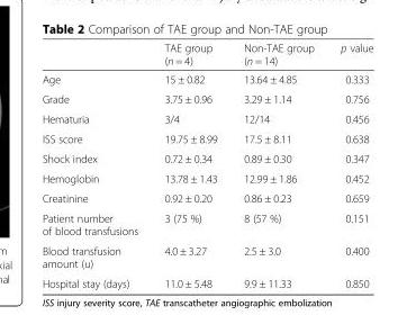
<table><thead><tr><td></td><td>TAE group (n = 4)</td><td>Non-TAE group (n = 14)</td><td>p value</td></tr></thead><tbody><tr><td>Age</td><td>15 ± 0.82</td><td>13.64 ± 4.85</td><td>0.333</td></tr><tr><td>Grade</td><td>3.75 ± 0.96</td><td>3.29 ± 1.14</td><td>0.756</td></tr><tr><td>Hematuria</td><td>3/4</td><td>12/14</td><td>0.456</td></tr><tr><td>ISS score</td><td>19.75 ± 8.99</td><td>17.5 ± 8.11</td><td>0.638</td></tr><tr><td>Shock index</td><td>0.72 ± 0.34</td><td>0.89 ± 0.30</td><td>0.347</td></tr><tr><td>Hemoglobin</td><td>13.78 ± 1.43</td><td>12.99 ± 1.86</td><td>0.452</td></tr><tr><td>Creatinine</td><td>0.92 ± 0.20</td><td>0.86 ± 0.23</td><td>0.659</td></tr><tr><td>Patient number of blood transfusions</td><td>3 (75 %)</td><td>8 (57 %)</td><td>0.151</td></tr><tr><td>Blood transfusion amount (u)</td><td>4.0 ± 3.27</td><td>2.5 ± 3.0</td><td>0.400</td></tr><tr><td>Hospital stay (days)</td><td>11.0 ± 5.48</td><td>9.9 ± 11.33</td><td>0.850</td></tr></tbody></table>